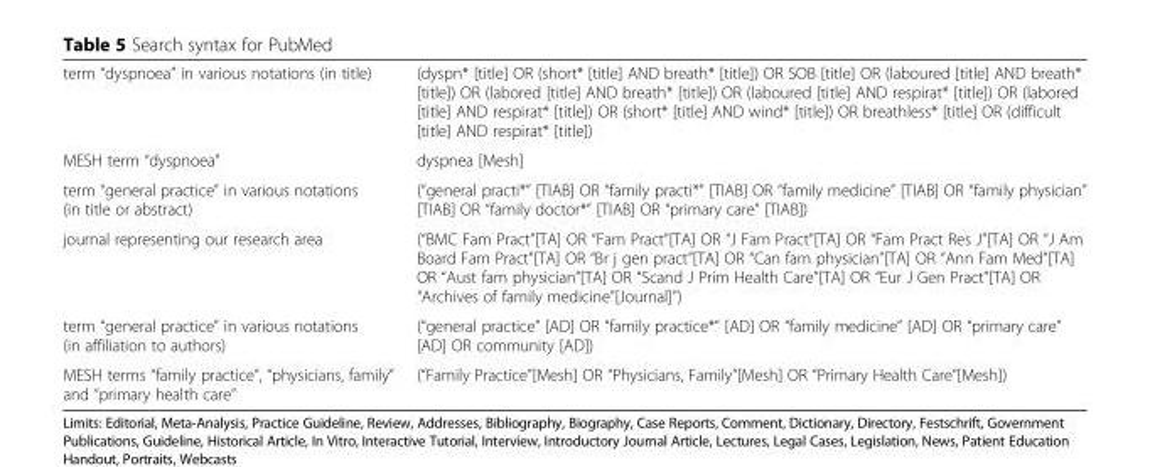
<table><tbody><tr><td>term “dyspnoea” in various notations (in title)</td><td>(dyspn* [title] OR (short* [title] AND breath* [title]) OR SOB [title] OR (laboured [title] AND breath* [title]) OR (labored [title] AND breath* [title]) OR (laboured [title] AND respirat* [title]) OR (labored [title] AND respirat* [title]) OR (short* [title] AND wind* [title]) OR breathless* [title] OR (difficult [title] AND respirat* [title])</td></tr><tr><td>MESH term “dyspnoea”</td><td>dyspnea [Mesh]</td></tr><tr><td>term “general practice” in various notations (in title or abstract)</td><td>(“general practi*” [TIAB] OR “family practi*” [TIAB] OR “family medicine” [TIAB] OR “family physician” [TIAB] OR “family doctor*” [TIAB] OR “primary care” [TIAB])</td></tr><tr><td>journal representing our research area</td><td>(“BMC Fam Pract”[TA] OR “Fam Pract”[TA] OR “J Fam Pract”[TA] OR “Fam Pract Res J”[TA] OR “J Am Board Fam Pract”[TA] OR “Br j gen pract”[TA] OR “Can fam physician”[TA] OR “Ann Fam Med”[TA] OR “Aust fam physician”[TA] OR “Scand J Prim Health Care”[TA] OR “Eur J Gen Pract”[TA] OR “Archives of family medicine”[Journal]”)</td></tr><tr><td>term “general practice” in various notations (in affiliation to authors)</td><td>(“general practice” [AD] OR “family practice*” [AD] OR “family medicine” [AD] OR “primary care” [AD] OR community [AD])</td></tr><tr><td>MESH terms “family practice”, “physicians, family” and “primary health care”</td><td>(“Family Practice”[Mesh] OR “Physicians, Family”[Mesh] OR “Primary Health Care”[Mesh])</td></tr></tbody></table>